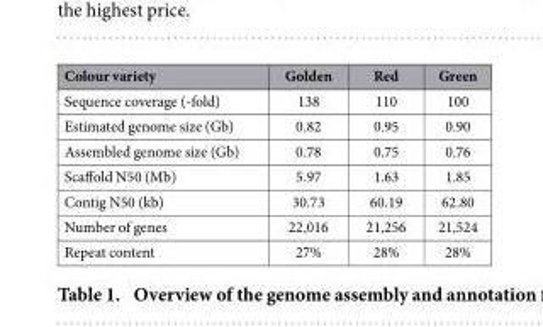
<table><thead><tr><td>Colour variety</td><td>Golden</td><td>Red</td><td>Green</td></tr></thead><tbody><tr><td>Sequence coverage (-fold)</td><td>138</td><td>110</td><td>100</td></tr><tr><td>Estimated genome size (Gb)</td><td>0.82</td><td>0.95</td><td>0.90</td></tr><tr><td>Assembled genome size (Gb)</td><td>0.78</td><td>0.75</td><td>0.76</td></tr><tr><td>Scaffold N50 (Mb)</td><td>5.97</td><td>1.63</td><td>1.85</td></tr><tr><td>Contig N50 (kb)</td><td>30.73</td><td>60.19</td><td>62.80</td></tr><tr><td>Number of genes</td><td>22,016</td><td>21,256</td><td>21,524</td></tr><tr><td>Repeat content</td><td>27%</td><td>28%</td><td>28%</td></tr></tbody></table>